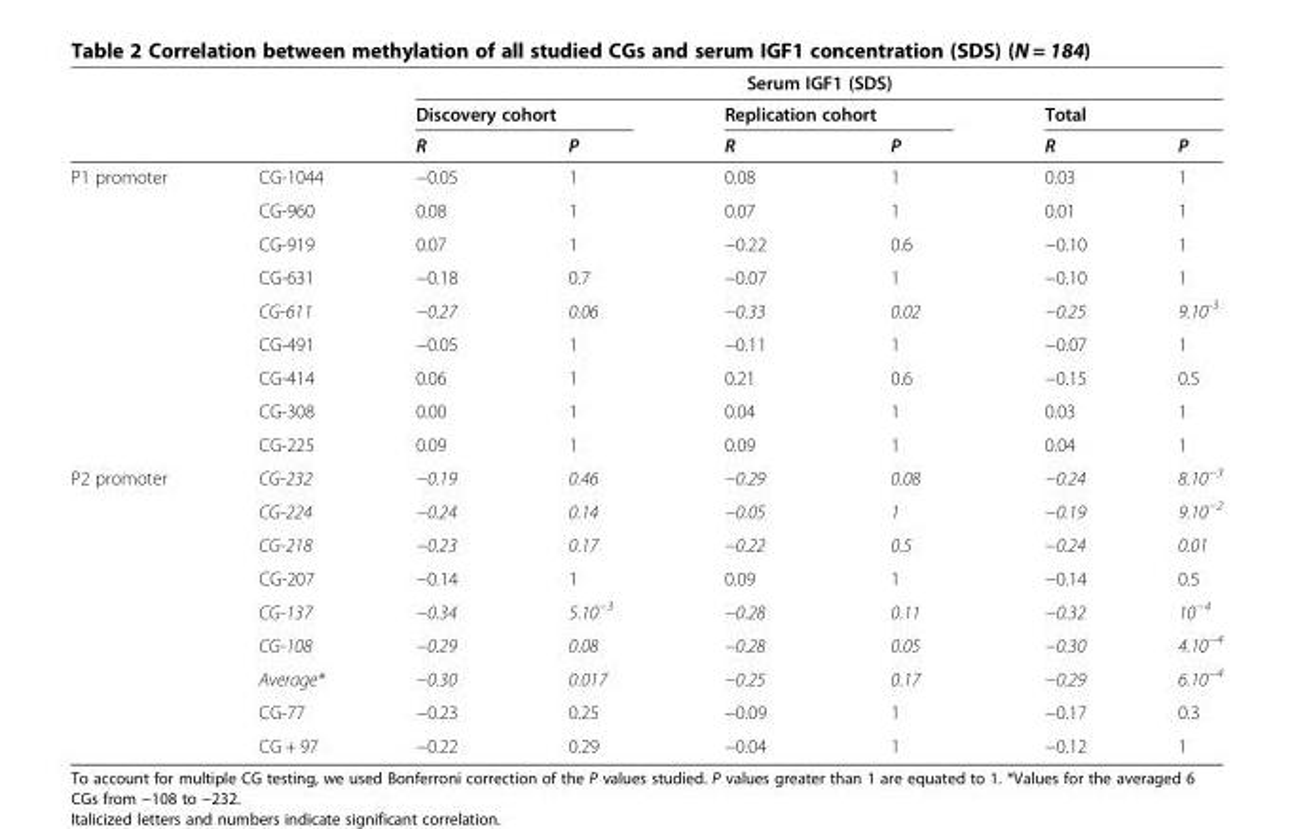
<table><thead><tr><td rowspan="3"></td><td rowspan="3"></td><td colspan="6">Serum IGF1 (SDS)</td></tr><tr><td colspan="2">Discovery cohort</td><td colspan="2">Replication cohort</td><td colspan="2">Total</td></tr><tr><td>R</td><td>P</td><td>R</td><td>P</td><td>R</td><td>P</td></tr></thead><tbody><tr><td rowspan="9">P1 promoter</td><td>CG-1044</td><td>−0.05</td><td>1</td><td>0.08</td><td>1</td><td>0.03</td><td>1</td></tr><tr><td>CG-960</td><td>0.08</td><td>1</td><td>0.07</td><td>1</td><td>0.01</td><td>1</td></tr><tr><td>CG-919</td><td>0.07</td><td>1</td><td>−0.22</td><td>0.6</td><td>−0.10</td><td>1</td></tr><tr><td>CG-631</td><td>−0.18</td><td>0.7</td><td>−0.07</td><td>1</td><td>−0.10</td><td>1</td></tr><tr><td>CG-611</td><td>−0.27</td><td>0.06</td><td>−0.33</td><td>0.02</td><td>−0.25</td><td>9.10<sup>-3</sup></td></tr><tr><td>CG-491</td><td>−0.05</td><td>1</td><td>−0.11</td><td>1</td><td>−0.07</td><td>1</td></tr><tr><td>CG-414</td><td>0.06</td><td>1</td><td>0.21</td><td>0.6</td><td>−0.15</td><td>0.5</td></tr><tr><td>CG-308</td><td>0.00</td><td>1</td><td>0.04</td><td>1</td><td>0.03</td><td>1</td></tr><tr><td>CG-225</td><td>0.09</td><td>1</td><td>0.09</td><td>1</td><td>0.04</td><td>1</td></tr><tr><td rowspan="9">P2 promoter</td><td>CG-232</td><td>−0.19</td><td>0.46</td><td>−0.29</td><td>0.08</td><td>−0.24</td><td>8.10<sup>−3</sup></td></tr><tr><td>CG-224</td><td>−0.24</td><td>0.14</td><td>−0.05</td><td>1</td><td>−0.19</td><td>9.10<sup>−2</sup></td></tr><tr><td>CG-218</td><td>−0.23</td><td>0.17</td><td>−0.22</td><td>0.5</td><td>−0.24</td><td>0.01</td></tr><tr><td>CG-207</td><td>−0.14</td><td>1</td><td>0.09</td><td>1</td><td>−0.14</td><td>0.5</td></tr><tr><td>CG-137</td><td>−0.34</td><td>5.10<sup>−3</sup></td><td>−0.28</td><td>0.11</td><td>−0.32</td><td>10<sup>−4</sup></td></tr><tr><td>CG-108</td><td>−0.29</td><td>0.08</td><td>−0.28</td><td>0.05</td><td>−0.30</td><td>4.10<sup>−4</sup></td></tr><tr><td>Average*</td><td>−0.30</td><td>0.017</td><td>−0.25</td><td>0.17</td><td>−0.29</td><td>6.10<sup>−4</sup></td></tr><tr><td>CG-77</td><td>−0.23</td><td>0.25</td><td>−0.09</td><td>1</td><td>−0.17</td><td>0.3</td></tr><tr><td>CG + 97</td><td>−0.22</td><td>0.29</td><td>−0.04</td><td>1</td><td>−0.12</td><td>1</td></tr></tbody></table>